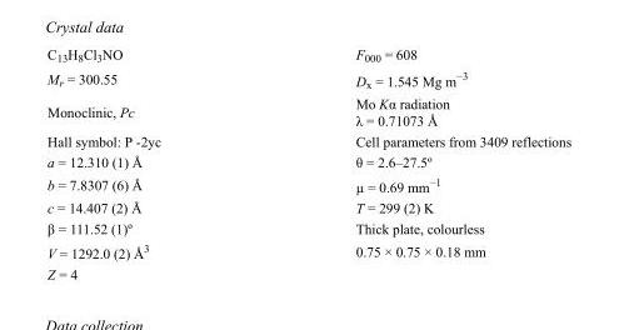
<table><tbody><tr><td>C<sub>13</sub>H<sub>8</sub>Cl<sub>3</sub>NO</td><td>F<sub>000</sub> = 608</td></tr><tr><td>M<sub>r</sub> = 300.55</td><td>D<sub>x</sub> = 1.545 Mg m<sup>−3</sup></td></tr><tr><td>Monoclinic, Pc</td><td>Mo Kα radiation λ = 0.71073 Å</td></tr><tr><td>Hall symbol: P -2yc</td><td>Cell parameters from 3409 reflections</td></tr><tr><td>a = 12.310 (1) Å</td><td>θ = 2.6–27.5º</td></tr><tr><td>b = 7.8307 (6) Å</td><td>µ = 0.69 mm<sup>−1</sup></td></tr><tr><td>c = 14.407 (2) Å</td><td>T = 299 (2) K</td></tr><tr><td>β = 111.52 (1)º</td><td>Thick plate, colourless</td></tr><tr><td>V = 1292.0 (2) Å<sup>3</sup></td><td>0.75 × 0.75 × 0.18 mm</td></tr><tr><td>Z = 4</td><td></td></tr></tbody></table>